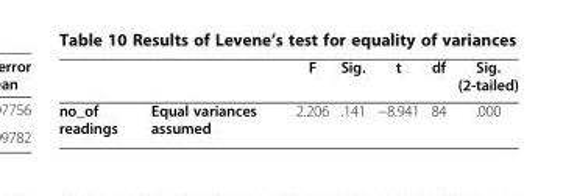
<table><thead><tr><td></td><td></td><td>F</td><td>Sig.</td><td>t</td><td>df</td><td>Sig. (2-tailed)</td></tr></thead><tbody><tr><td>no_of readings</td><td>Equal variances assumed</td><td>2.206</td><td>.141</td><td>−8.941</td><td>84</td><td>.000</td></tr></tbody></table>